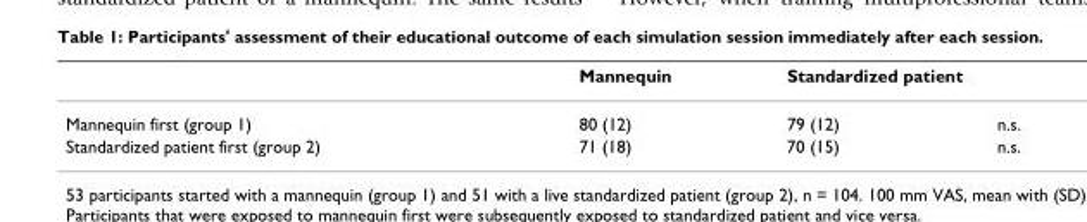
<table><thead><tr><td rowspan="2">Mannequin first (group 1)</td><td rowspan="2">Mannequin 80 (12)</td><td colspan="2">Standardized patient</td></tr><tr><td>79 (12)</td><td>n.s.</td></tr></thead><tbody><tr><td>Standardized patient first (group 2)</td><td>71 (18)</td><td>70 (15)</td><td>n.s.</td></tr></tbody></table>